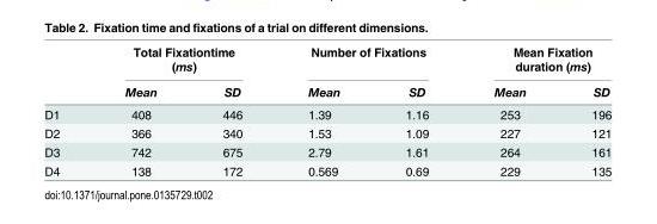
<table><thead><tr><td rowspan="2"></td><td colspan="2">Total Fixationtime (ms)</td><td colspan="2">Number of Fixations</td><td colspan="2">Mean Fixation duration (ms)</td></tr><tr><td>Mean</td><td>SD</td><td>Mean</td><td>SD</td><td>Mean</td><td>SD</td></tr></thead><tbody><tr><td>D1</td><td>408</td><td>446</td><td>1.39</td><td>1.16</td><td>253</td><td>196</td></tr><tr><td>D2</td><td>366</td><td>340</td><td>1.53</td><td>1.09</td><td>227</td><td>121</td></tr><tr><td>D3</td><td>742</td><td>675</td><td>2.79</td><td>1.61</td><td>264</td><td>161</td></tr><tr><td>D4</td><td>138</td><td>172</td><td>0.569</td><td>0.69</td><td>229</td><td>135</td></tr></tbody></table>